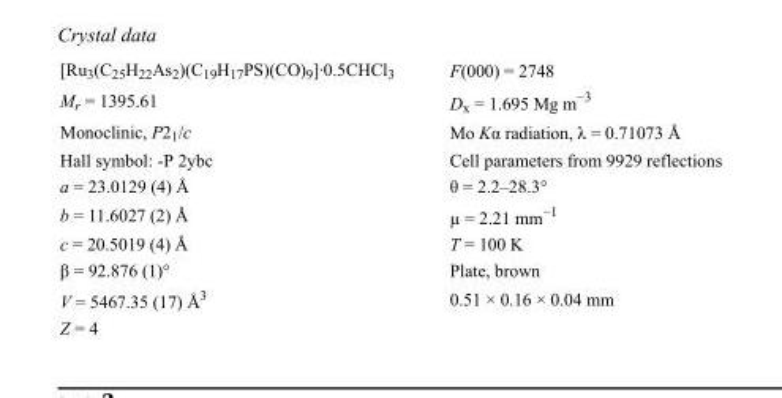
<table><tbody><tr><td>[Ru<sub>3</sub>(C<sub>25</sub>H<sub>22</sub>As<sub>2</sub>)(C<sub>19</sub>H<sub>17</sub>PS)(CO)<sub>9</sub>]·0.5CHCl<sub>3</sub></td><td>F(000) = 2748</td></tr><tr><td>M<sub>r</sub> = 1395.61</td><td>D<sub>x</sub> = 1.695 Mg m<sup>−3</sup></td></tr><tr><td>Monoclinic, P2<sub>1</sub>/c</td><td>Mo Kα radiation, λ = 0.71073 Å</td></tr><tr><td>Hall symbol: -P 2ybc</td><td>Cell parameters from 9929 reflections</td></tr><tr><td>a = 23.0129 (4) Å</td><td>θ = 2.2–28.3°</td></tr><tr><td>b = 11.6027 (2) Å</td><td>µ = 2.21 mm<sup>−1</sup></td></tr><tr><td>c = 20.5019 (4) Å</td><td>T = 100 K</td></tr><tr><td>β = 92.876 (1)°</td><td>Plate, brown</td></tr><tr><td>V = 5467.35 (17) Å<sup>3</sup></td><td>0.51 × 0.16 × 0.04 mm</td></tr><tr><td>Z = 4</td><td></td></tr></tbody></table>